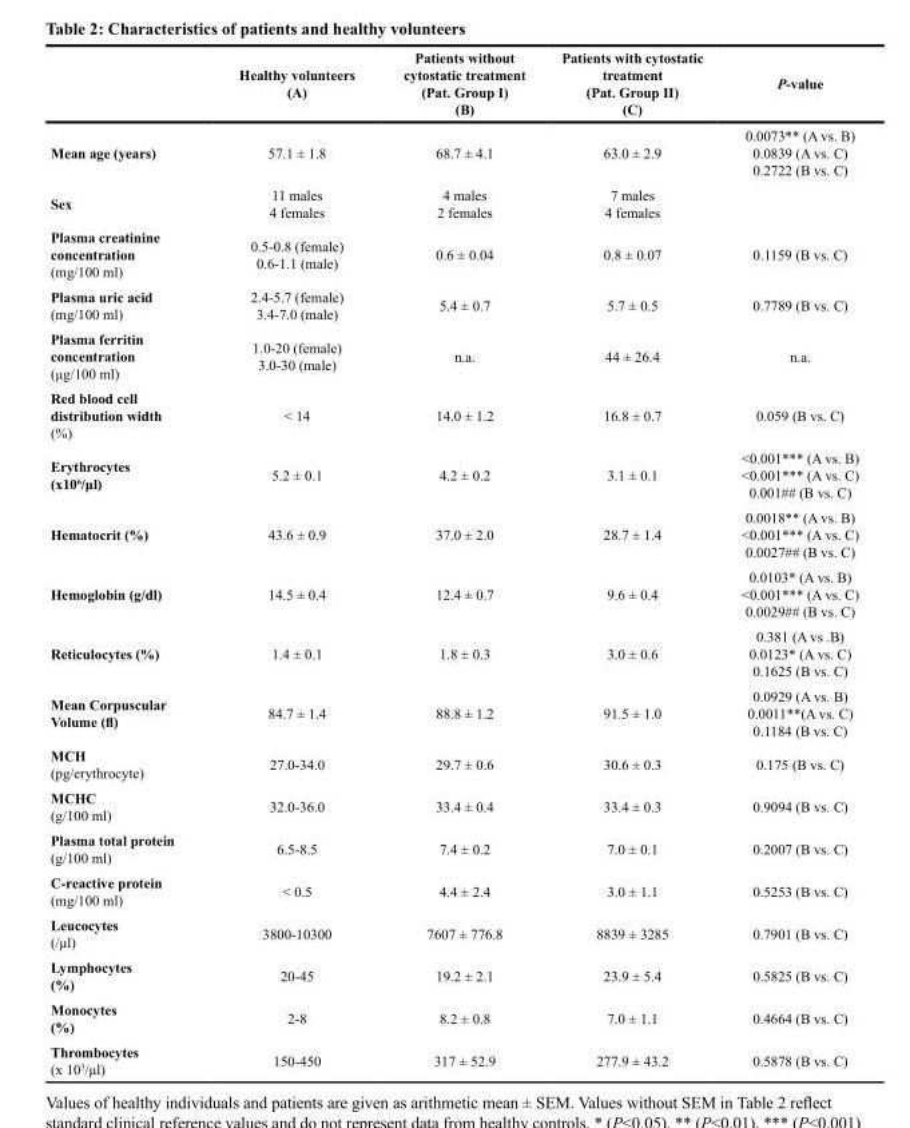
<table><thead><tr><td></td><td>Healthy volunteers (A)</td><td>Patients without cytostatic treatment (Pat. Group I) (B)</td><td>Patients with cytostatic treatment (Pat. Group II) (C)</td><td>P-value</td></tr></thead><tbody><tr><td>Mean age (years)</td><td>57.1 ± 1.8</td><td>68.7 ± 4.1</td><td>63.0 ± 2.9</td><td>0.0073** (A vs. B) 0.0839 (A vs. C) 0.2722 (B vs. C)</td></tr><tr><td>Sex</td><td>11 males 4 females</td><td>4 males 2 females</td><td>7 males 4 females</td><td></td></tr><tr><td>Plasma creatinine concentration (mg/100 ml)</td><td>0.5-0.8 (female) 0.6-1.1 (male)</td><td>0.6 ± 0.04</td><td>0.8 ± 0.07</td><td>0.1159 (B vs. C)</td></tr><tr><td>Plasma uric acid (mg/100 ml)</td><td>2.4-5.7 (female) 3.4-7.0 (male)</td><td>5.4 ± 0.7</td><td>5.7 ± 0.5</td><td>0.7789 (B vs. C)</td></tr><tr><td>Plasma ferritin concentration (μg/100 ml)</td><td>1.0-20 (female) 3.0-30 (male)</td><td>n.a.</td><td>44 ± 26.4</td><td>n.a.</td></tr><tr><td>Red blood cell distribution width (%)</td><td>&lt; 14</td><td>14.0 ± 1.2</td><td>16.8 ± 0.7</td><td>0.059 (B vs. C)</td></tr><tr><td>Erythrocytes (x10<sup>6</sup>/μl)</td><td>5.2 ± 0.1</td><td>4.2 ± 0.2</td><td>3.1 ± 0.1</td><td>&lt;0.001*** (A vs. B) &lt;0.001*** (A vs. C) 0.001## (B vs. C)</td></tr><tr><td>Hematocrit (%)</td><td>43.6 ± 0.9</td><td>37.0 ± 2.0</td><td>28.7 ± 1.4</td><td>0.0018** (A vs. B) &lt;0.001*** (A vs. C) 0.0027## (B vs. C)</td></tr><tr><td>Hemoglobin (g/dl)</td><td>14.5 ± 0.4</td><td>12.4 ± 0.7</td><td>9.6 ± 0.4</td><td>0.0103* (A vs. B) &lt;0.001*** (A vs. C) 0.0029## (B vs. C)</td></tr><tr><td>Reticulocytes (%)</td><td>1.4 ± 0.1</td><td>1.8 ± 0.3</td><td>3.0 ± 0.6</td><td>0.381 (A vs .B) 0.0123* (A vs. C) 0.1625 (B vs. C)</td></tr><tr><td>Mean Corpuscular Volume (fl)</td><td>84.7 ± 1.4</td><td>88.8 ± 1.2</td><td>91.5 ± 1.0</td><td>0.0929 (A vs. B) 0.0011**(A vs. C) 0.1184 (B vs. C)</td></tr><tr><td>MCH (pg/erythrocyte)</td><td>27.0-34.0</td><td>29.7 ± 0.6</td><td>30.6 ± 0.3</td><td>0.175 (B vs. C)</td></tr><tr><td>MCHC (g/100 ml)</td><td>32.0-36.0</td><td>33.4 ± 0.4</td><td>33.4 ± 0.3</td><td>0.9094 (B vs. C)</td></tr><tr><td>Plasma total protein (g/100 ml)</td><td>6.5-8.5</td><td>7.4 ± 0.2</td><td>7.0 ± 0.1</td><td>0.2007 (B vs. C)</td></tr><tr><td>C-reactive protein (mg/100 ml)</td><td>&lt; 0.5</td><td>4.4 ± 2.4</td><td>3.0 ± 1.1</td><td>0.5253 (B vs. C)</td></tr><tr><td>Leucocytes (/μl)</td><td>3800-10300</td><td>7607 ± 776.8</td><td>8839 ± 3285</td><td>0.7901 (B vs. C)</td></tr><tr><td>Lymphocytes (%)</td><td>20-45</td><td>19.2 ± 2.1</td><td>23.9 ± 5.4</td><td>0.5825 (B vs. C)</td></tr><tr><td>Monocytes (%)</td><td>2-8</td><td>8.2 ± 0.8</td><td>7.0 ± 1.1</td><td>0.4664 (B vs. C)</td></tr><tr><td>Thrombocytes (x 10<sup>3</sup>/μl)</td><td>150-450</td><td>317 ± 52.9</td><td>277.9 ± 43.2</td><td>0.5878 (B vs. C)</td></tr></tbody></table>